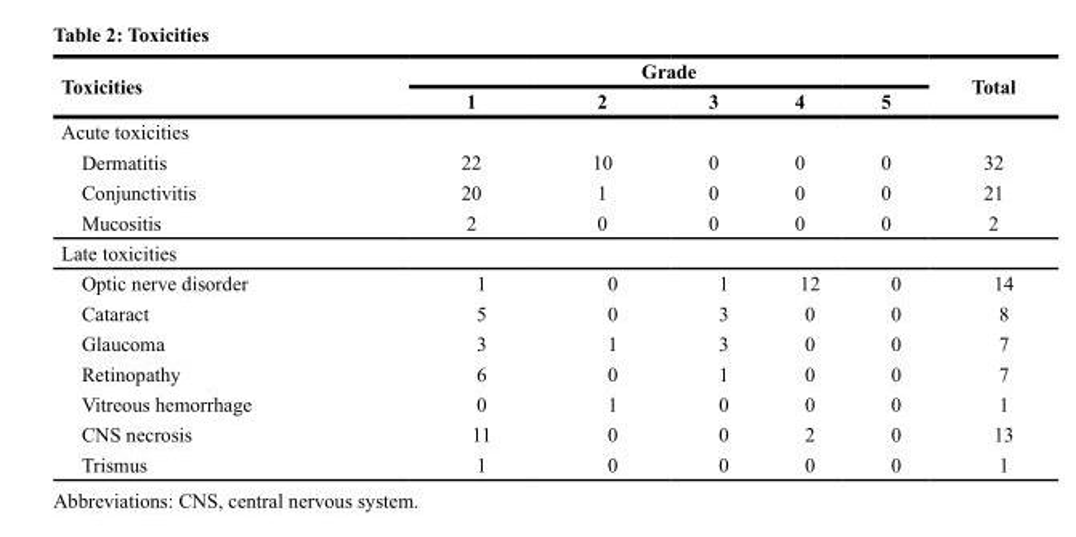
<table><thead><tr><td rowspan="2">Toxicities</td><td colspan="5">Grade</td><td rowspan="2">Total</td></tr><tr><td>1</td><td>2</td><td>3</td><td>4</td><td>5</td></tr></thead><tbody><tr><td colspan="7">Acute toxicities</td></tr><tr><td>Dermatitis</td><td>22</td><td>10</td><td>0</td><td>0</td><td>0</td><td>32</td></tr><tr><td>Conjunctivitis</td><td>20</td><td>1</td><td>0</td><td>0</td><td>0</td><td>21</td></tr><tr><td>Mucositis</td><td>2</td><td>0</td><td>0</td><td>0</td><td>0</td><td>2</td></tr><tr><td colspan="7">Late toxicities</td></tr><tr><td>Optic nerve disorder</td><td>1</td><td>0</td><td>1</td><td>12</td><td>0</td><td>14</td></tr><tr><td>Cataract</td><td>5</td><td>0</td><td>3</td><td>0</td><td>0</td><td>8</td></tr><tr><td>Glaucoma</td><td>3</td><td>1</td><td>3</td><td>0</td><td>0</td><td>7</td></tr><tr><td>Retinopathy</td><td>6</td><td>0</td><td>1</td><td>0</td><td>0</td><td>7</td></tr><tr><td>Vitreous hemorrhage</td><td>0</td><td>1</td><td>0</td><td>0</td><td>0</td><td>1</td></tr><tr><td>CNS necrosis</td><td>11</td><td>0</td><td>0</td><td>2</td><td>0</td><td>13</td></tr><tr><td>Trismus</td><td>1</td><td>0</td><td>0</td><td>0</td><td>0</td><td>1</td></tr></tbody></table>